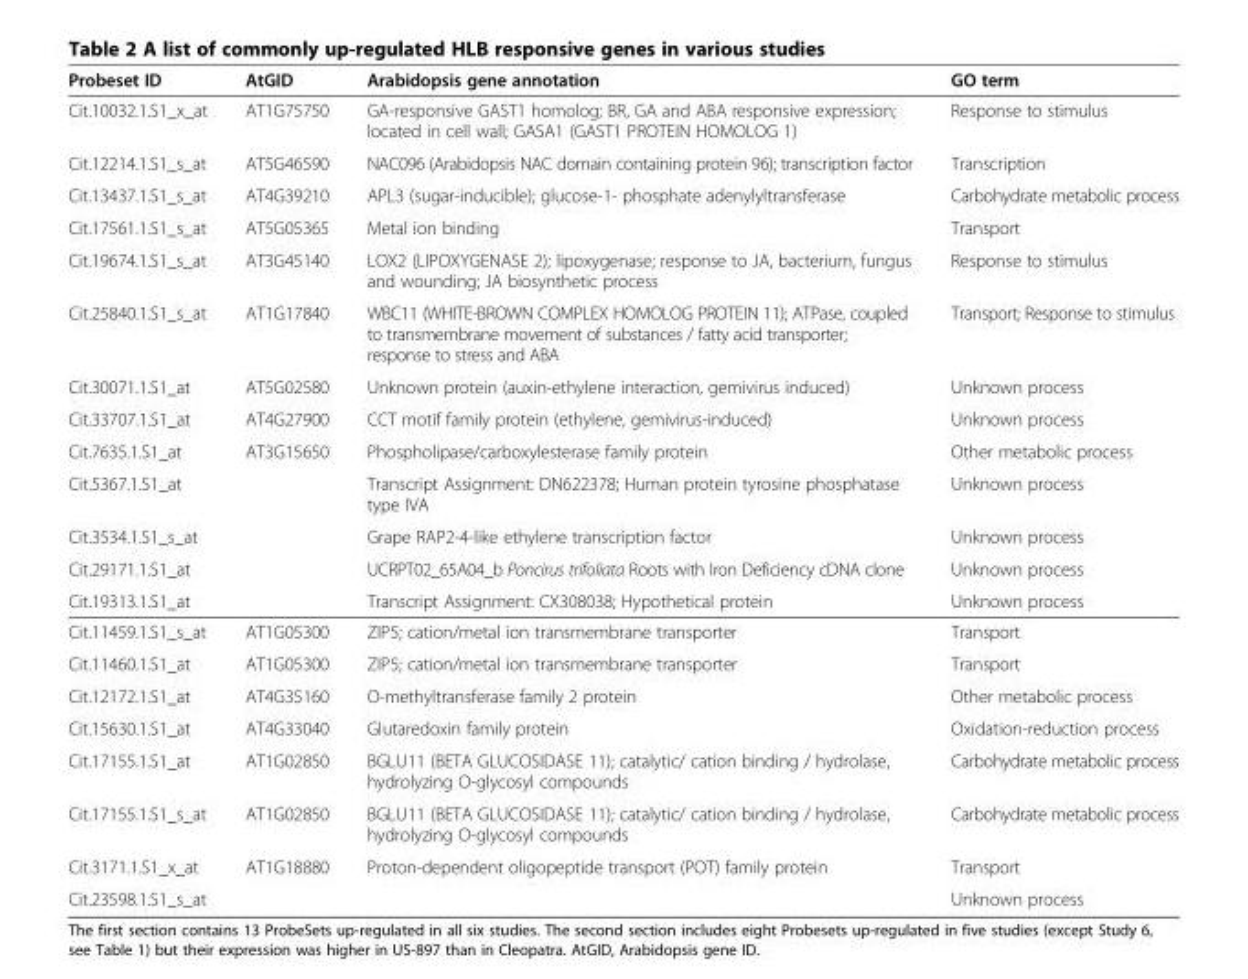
<table><thead><tr><td>Probeset ID</td><td>AtGID</td><td>Arabidopsis gene annotation</td><td>GO term</td></tr></thead><tbody><tr><td>Cit.10032.1.S1_x_at</td><td>AT1G75750</td><td>GA-responsive GAST1 homolog; BR, GA and ABA responsive expression; located in cell wall; GASA1 (GAST1 PROTEIN HOMOLOG 1)</td><td>Response to stimulus</td></tr><tr><td>Cit.12214.1.S1_s_at</td><td>AT5G46590</td><td>NAC096 (Arabidopsis NAC domain containing protein 96); transcription factor</td><td>Transcription</td></tr><tr><td>Cit.13437.1.S1_s_at</td><td>AT4G39210</td><td>APL3 (sugar-inducible); glucose-1- phosphate adenylyltransferase</td><td>Carbohydrate metabolic process</td></tr><tr><td>Cit.17561.1.S1_s_at</td><td>AT5G05365</td><td>Metal ion binding</td><td>Transport</td></tr><tr><td>Cit.19674.1.S1_s_at</td><td>AT3G45140</td><td>LOX2 (LIPOXYGENASE 2); lipoxygenase; response to JA, bacterium, fungus and wounding; JA biosynthetic process</td><td>Response to stimulus</td></tr><tr><td>Cit.25840.1.S1_s_at</td><td>AT1G17840</td><td>WBC11 (WHITE-BROWN COMPLEX HOMOLOG PROTEIN 11); ATPase, coupled to transmembrane movement of substances / fatty acid transporter; response to stress and ABA</td><td>Transport; Response to stimulus</td></tr><tr><td>Cit.30071.1.S1_at</td><td>AT5G02580</td><td>Unknown protein (auxin-ethylene interaction, gemivirus induced)</td><td>Unknown process</td></tr><tr><td>Cit.33707.1.S1_at</td><td>AT4G27900</td><td>CCT motif family protein (ethylene, gemivirus-induced)</td><td>Unknown process</td></tr><tr><td>Cit.7635.1.S1_at</td><td>AT3G15650</td><td>Phospholipase/carboxylesterase family protein</td><td>Other metabolic process</td></tr><tr><td>Cit.5367.1.S1_at</td><td></td><td>Transcript Assignment: DN622378; Human protein tyrosine phosphatase type IVA</td><td>Unknown process</td></tr><tr><td>Cit.3534.1.S1_s_at</td><td></td><td>Grape RAP2-4-like ethylene transcription factor</td><td>Unknown process</td></tr><tr><td>Cit.29171.1.S1_at</td><td></td><td>UCRPT02_65A04_b Poncirus trifoliata Roots with Iron Deficiency cDNA clone</td><td>Unknown process</td></tr><tr><td>Cit.19313.1.S1_at</td><td></td><td>Transcript Assignment: CX308038; Hypothetical protein</td><td>Unknown process</td></tr><tr><td>Cit.11459.1.S1_s_at</td><td>AT1G05300</td><td>ZIP5; cation/metal ion transmembrane transporter</td><td>Transport</td></tr><tr><td>Cit.11460.1.S1_at</td><td>AT1G05300</td><td>ZIP5; cation/metal ion transmembrane transporter</td><td>Transport</td></tr><tr><td>Cit.12172.1.S1_at</td><td>AT4G35160</td><td>O-methyltransferase family 2 protein</td><td>Other metabolic process</td></tr><tr><td>Cit.15630.1.S1_at</td><td>AT4G33040</td><td>Glutaredoxin family protein</td><td>Oxidation-reduction process</td></tr><tr><td>Cit.17155.1.S1_at</td><td>AT1G02850</td><td>BGLU11 (BETA GLUCOSIDASE 11); catalytic/ cation binding / hydrolase, hydrolyzing O-glycosyl compounds</td><td>Carbohydrate metabolic process</td></tr><tr><td>Cit.17155.1.S1_s_at</td><td>AT1G02850</td><td>BGLU11 (BETA GLUCOSIDASE 11); catalytic/ cation binding / hydrolase, hydrolyzing O-glycosyl compounds</td><td>Carbohydrate metabolic process</td></tr><tr><td>Cit.3171.1.S1_x_at</td><td>AT1G18880</td><td>Proton-dependent oligopeptide transport (POT) family protein</td><td>Transport</td></tr><tr><td>Cit.23598.1.S1_s_at</td><td></td><td></td><td>Unknown process</td></tr></tbody></table>